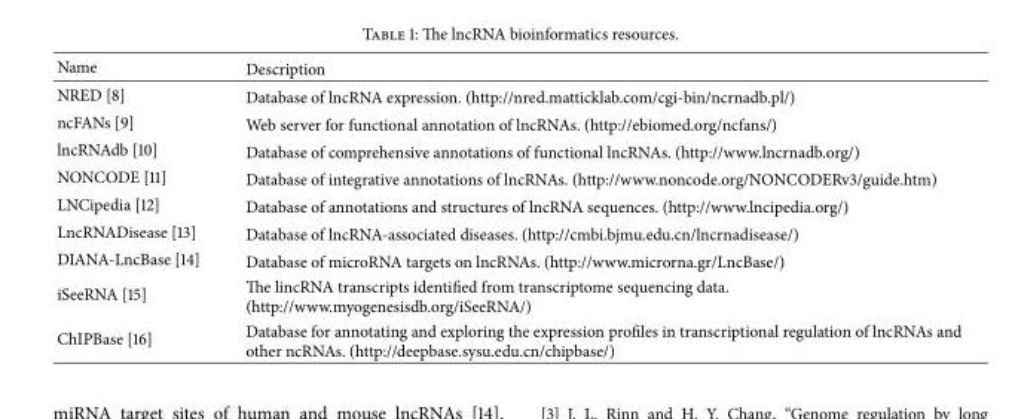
<table><thead><tr><td>Name</td><td>Description</td></tr></thead><tbody><tr><td>NRED [8]</td><td>Database of lncRNA expression. (http://nred.matticklab.com/cgi-bin/ncrnadb.pl/)</td></tr><tr><td>ncFANs [9]</td><td>Web server for functional annotation of lncRNAs. (http://ebiomed.org/ncfans/)</td></tr><tr><td>lncRNAdb [10]</td><td>Database of comprehensive annotations of functional lncRNAs. (http://www.lncrnadb.org/)</td></tr><tr><td>NONCODE [11]</td><td>Database of integrative annotations of lncRNAs. (http://www.noncode.org/NONCODERv3/guide.htm)</td></tr><tr><td>LNCipedia [12]</td><td>Database of annotations and structures of lncRNA sequences. (http://www.lncipedia.org/)</td></tr><tr><td>LncRNADisease [13]</td><td>Database of lncRNA-associated diseases. (http://cmbi.bjmu.edu.cn/lncrnadisease/)</td></tr><tr><td>DIANA-LncBase [14]</td><td>Database of microRNA targets on lncRNAs. (http://www.microrna.gr/LncBase/)</td></tr><tr><td>iSeeRNA [15]</td><td>The lincRNA transcripts identified from transcriptome sequencing data. (http://www.myogenesisdb.org/iSeeRNA/)</td></tr><tr><td>ChIPBase [16]</td><td>Database for annotating and exploring the expression profiles in transcriptional regulation of lncRNAs and other ncRNAs. (http://deepbase.sysu.edu.cn/chipbase/)</td></tr></tbody></table>